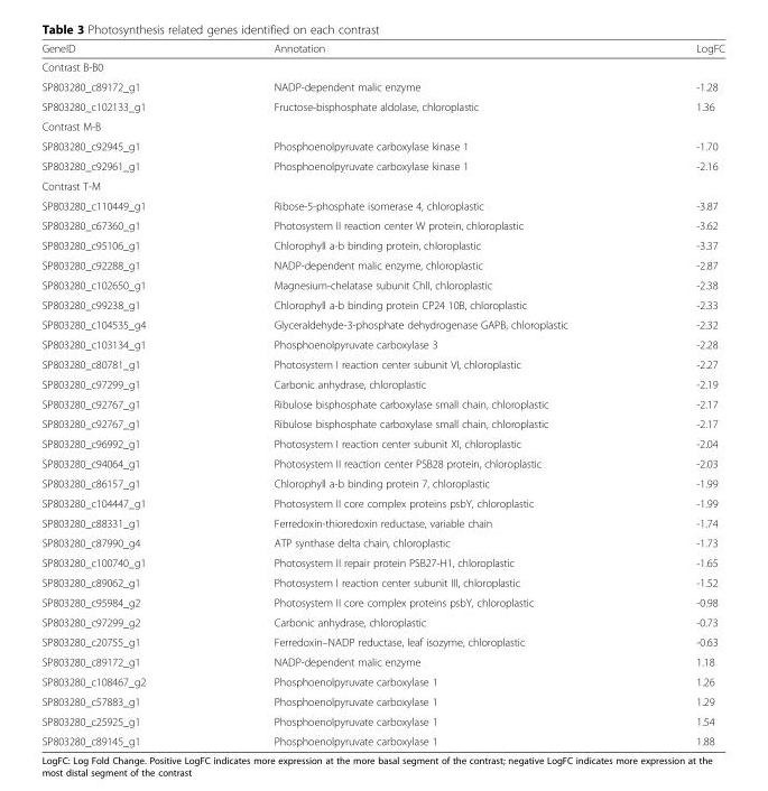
<table><thead><tr><td>GeneID</td><td>Annotation</td><td>LogFC</td></tr></thead><tbody><tr><td colspan="3">Contrast B-B0</td></tr><tr><td>SP803280_c89172_g1</td><td>NADP-dependent malic enzyme</td><td>-1.28</td></tr><tr><td>SP803280_c102133_g1</td><td>Fructose-bisphosphate aldolase, chloroplastic</td><td>1.36</td></tr><tr><td colspan="3">Contrast M-B</td></tr><tr><td>SP803280_c92945_g1</td><td>Phosphoenolpyruvate carboxylase kinase 1</td><td>-1.70</td></tr><tr><td>SP803280_c92961_g1</td><td>Phosphoenolpyruvate carboxylase kinase 1</td><td>-2.16</td></tr><tr><td colspan="3">Contrast T-M</td></tr><tr><td>SP803280_c110449_g1</td><td>Ribose-5-phosphate isomerase 4, chloroplastic</td><td>-3.87</td></tr><tr><td>SP803280_c67360_g1</td><td>Photosystem II reaction center W protein, chloroplastic</td><td>-3.62</td></tr><tr><td>SP803280_c95106_g1</td><td>Chlorophyll a-b binding protein, chloroplastic</td><td>-3.37</td></tr><tr><td>SP803280_c92288_g1</td><td>NADP-dependent malic enzyme, chloroplastic</td><td>-2.87</td></tr><tr><td>SP803280_c102650_g1</td><td>Magnesium-chelatase subunit ChlI, chloroplastic</td><td>-2.38</td></tr><tr><td>SP803280_c99238_g1</td><td>Chlorophyll a-b binding protein CP24 10B, chloroplastic</td><td>-2.33</td></tr><tr><td>SP803280_c104535_g4</td><td>Glyceraldehyde-3-phosphate dehydrogenase GAPB, chloroplastic</td><td>-2.32</td></tr><tr><td>SP803280_c103134_g1</td><td>Phosphoenolpyruvate carboxylase 3</td><td>-2.28</td></tr><tr><td>SP803280_c80781_g1</td><td>Photosystem I reaction center subunit VI, chloroplastic</td><td>-2.27</td></tr><tr><td>SP803280_c97299_g1</td><td>Carbonic anhydrase, chloroplastic</td><td>-2.19</td></tr><tr><td>SP803280_c92767_g1</td><td>Ribulose bisphosphate carboxylase small chain, chloroplastic</td><td>-2.17</td></tr><tr><td>SP803280_c92767_g1</td><td>Ribulose bisphosphate carboxylase small chain, chloroplastic</td><td>-2.17</td></tr><tr><td>SP803280_c96992_g1</td><td>Photosystem I reaction center subunit XI, chloroplastic</td><td>-2.04</td></tr><tr><td>SP803280_c94064_g1</td><td>Photosystem II reaction center PSB28 protein, chloroplastic</td><td>-2.03</td></tr><tr><td>SP803280_c86157_g1</td><td>Chlorophyll a-b binding protein 7, chloroplastic</td><td>-1.99</td></tr><tr><td>SP803280_c104447_g1</td><td>Photosystem II core complex proteins psbY, chloroplastic</td><td>-1.99</td></tr><tr><td>SP803280_c88331_g1</td><td>Ferredoxin-thioredoxin reductase, variable chain</td><td>-1.74</td></tr><tr><td>SP803280_c87990_g4</td><td>ATP synthase delta chain, chloroplastic</td><td>-1.73</td></tr><tr><td>SP803280_c100740_g1</td><td>Photosystem II repair protein PSB27-H1, chloroplastic</td><td>-1.65</td></tr><tr><td>SP803280_c89062_g1</td><td>Photosystem I reaction center subunit III, chloroplastic</td><td>-1.52</td></tr><tr><td>SP803280_c95984_g2</td><td>Photosystem II core complex proteins psbY, chloroplastic</td><td>-0.98</td></tr><tr><td>SP803280_c97299_g2</td><td>Carbonic anhydrase, chloroplastic</td><td>-0.73</td></tr><tr><td>SP803280_c20755_g1</td><td>Ferredoxin–NADP reductase, leaf isozyme, chloroplastic</td><td>-0.63</td></tr><tr><td>SP803280_c89172_g1</td><td>NADP-dependent malic enzyme</td><td>1.18</td></tr><tr><td>SP803280_c108467_g2</td><td>Phosphoenolpyruvate carboxylase 1</td><td>1.26</td></tr><tr><td>SP803280_c57883_g1</td><td>Phosphoenolpyruvate carboxylase 1</td><td>1.29</td></tr><tr><td>SP803280_c25925_g1</td><td>Phosphoenolpyruvate carboxylase 1</td><td>1.54</td></tr><tr><td>SP803280_c89145_g1</td><td>Phosphoenolpyruvate carboxylase 1</td><td>1.88</td></tr></tbody></table>